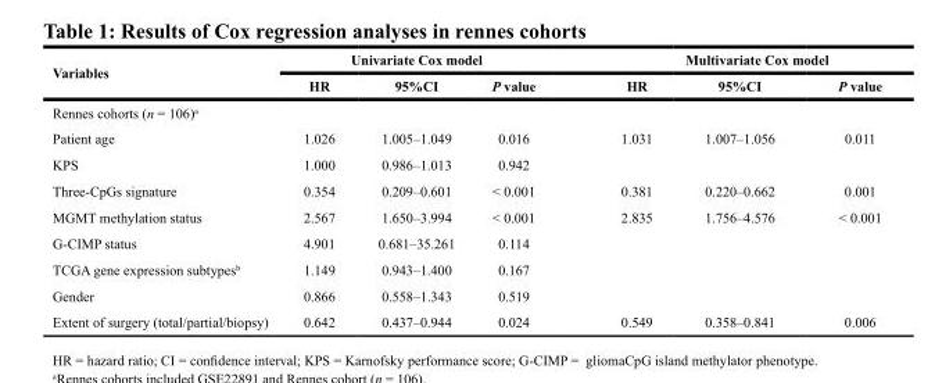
<table><thead><tr><td rowspan="2">Variables</td><td colspan="3">Univariate Cox model</td><td colspan="3">Multivariate Cox model</td></tr><tr><td>HR</td><td>95%CI</td><td>P value</td><td>HR</td><td>95%CI</td><td>P value</td></tr></thead><tbody><tr><td colspan="7">Rennes cohorts (n = 106)<sup>a</sup></td></tr><tr><td>Patient age</td><td>1.026</td><td>1.005–1.049</td><td>0.016</td><td>1.031</td><td>1.007–1.056</td><td>0.011</td></tr><tr><td>KPS</td><td>1.000</td><td>0.986–1.013</td><td>0.942</td><td></td><td></td><td></td></tr><tr><td>Three-CpGs signature</td><td>0.354</td><td>0.209–0.601</td><td>&lt; 0.001</td><td>0.381</td><td>0.220–0.662</td><td>0.001</td></tr><tr><td>MGMT methylation status</td><td>2.567</td><td>1.650–3.994</td><td>&lt; 0.001</td><td>2.835</td><td>1.756–4.576</td><td>&lt; 0.001</td></tr><tr><td>G-CIMP status</td><td>4.901</td><td>0.681–35.261</td><td>0.114</td><td></td><td></td><td></td></tr><tr><td>TCGA gene expression subtypes<sup>b</sup></td><td>1.149</td><td>0.943–1.400</td><td>0.167</td><td></td><td></td><td></td></tr><tr><td>Gender</td><td>0.866</td><td>0.558–1.343</td><td>0.519</td><td></td><td></td><td></td></tr><tr><td>Extent of surgery (total/partial/biopsy)</td><td>0.642</td><td>0.437–0.944</td><td>0.024</td><td>0.549</td><td>0.358–0.841</td><td>0.006</td></tr></tbody></table>